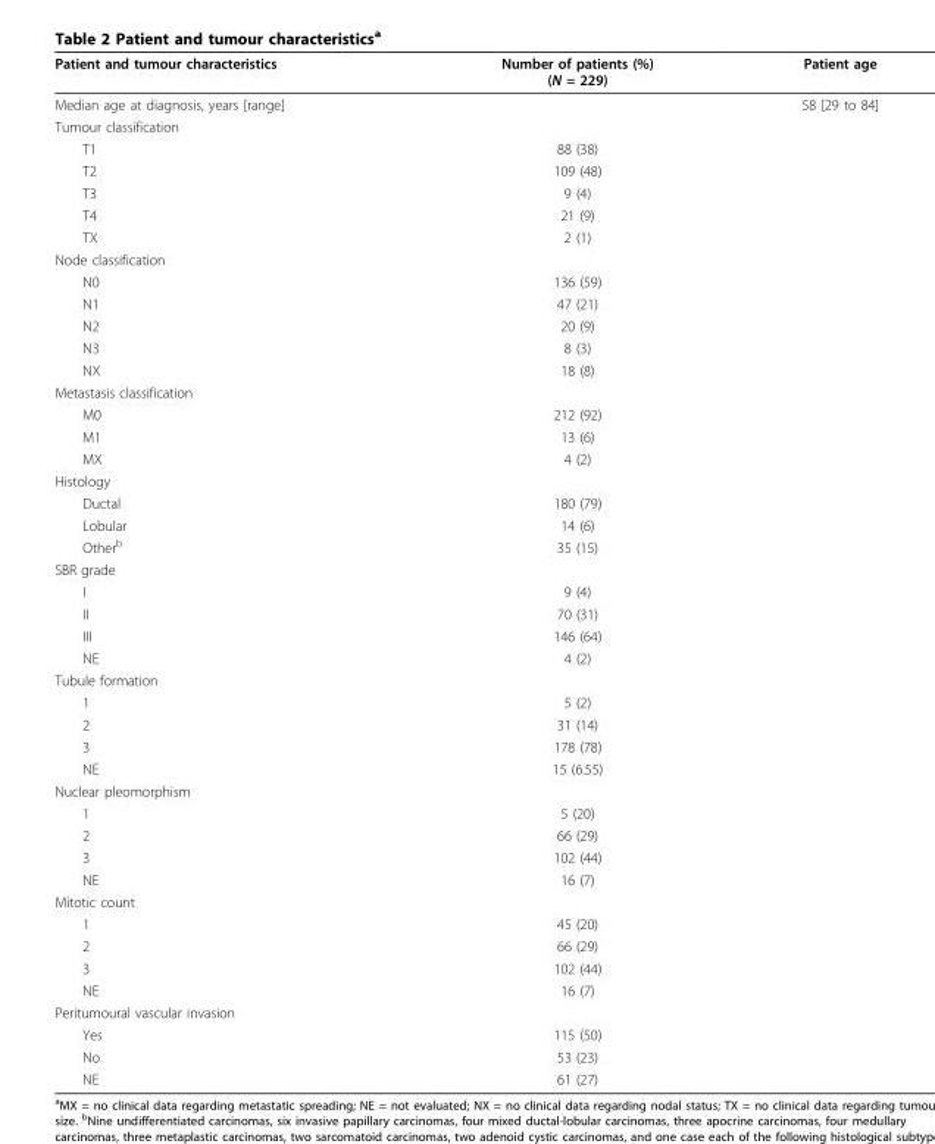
<table><thead><tr><td>Patient and tumour characteristics</td><td>Number of patients (%) (N = 229)</td><td>Patient age</td></tr></thead><tbody><tr><td>Median age at diagnosis, years [range]</td><td></td><td>58 [29 to 84]</td></tr><tr><td colspan="3">Tumour classification</td></tr><tr><td>T1</td><td>88 (38)</td><td></td></tr><tr><td>T2</td><td>109 (48)</td><td></td></tr><tr><td>T3</td><td>9 (4)</td><td></td></tr><tr><td>T4</td><td>21 (9)</td><td></td></tr><tr><td>TX</td><td>2 (1)</td><td></td></tr><tr><td colspan="3">Node classification</td></tr><tr><td>N0</td><td>136 (59)</td><td></td></tr><tr><td>N1</td><td>47 (21)</td><td></td></tr><tr><td>N2</td><td>20 (9)</td><td></td></tr><tr><td>N3</td><td>8 (3)</td><td></td></tr><tr><td>NX</td><td>18 (8)</td><td></td></tr><tr><td colspan="3">Metastasis classification</td></tr><tr><td>M0</td><td>212 (92)</td><td></td></tr><tr><td>M1</td><td>13 (6)</td><td></td></tr><tr><td>MX</td><td>4 (2)</td><td></td></tr><tr><td colspan="3">Histology</td></tr><tr><td>Ductal</td><td>180 (79)</td><td></td></tr><tr><td>Lobular</td><td>14 (6)</td><td></td></tr><tr><td>Other<sup>b</sup></td><td>35 (15)</td><td></td></tr><tr><td colspan="3">SBR grade</td></tr><tr><td>I</td><td>9 (4)</td><td></td></tr><tr><td>II</td><td>70 (31)</td><td></td></tr><tr><td>III</td><td>146 (64)</td><td></td></tr><tr><td>NE</td><td>4 (2)</td><td></td></tr><tr><td colspan="3">Tubule formation</td></tr><tr><td>1</td><td>5 (2)</td><td></td></tr><tr><td>2</td><td>31 (14)</td><td></td></tr><tr><td>3</td><td>178 (78)</td><td></td></tr><tr><td>NE</td><td>15 (6.55)</td><td></td></tr><tr><td colspan="3">Nuclear pleomorphism</td></tr><tr><td>1</td><td>5 (20)</td><td></td></tr><tr><td>2</td><td>66 (29)</td><td></td></tr><tr><td>3</td><td>102 (44)</td><td></td></tr><tr><td>NE</td><td>16 (7)</td><td></td></tr><tr><td colspan="3">Mitotic count</td></tr><tr><td>1</td><td>45 (20)</td><td></td></tr><tr><td>2</td><td>66 (29)</td><td></td></tr><tr><td>3</td><td>102 (44)</td><td></td></tr><tr><td>NE</td><td>16 (7)</td><td></td></tr><tr><td colspan="3">Peritumoural vascular invasion</td></tr><tr><td>Yes</td><td>115 (50)</td><td></td></tr><tr><td>No</td><td>53 (23)</td><td></td></tr><tr><td>NE</td><td>61 (27)</td><td></td></tr></tbody></table>